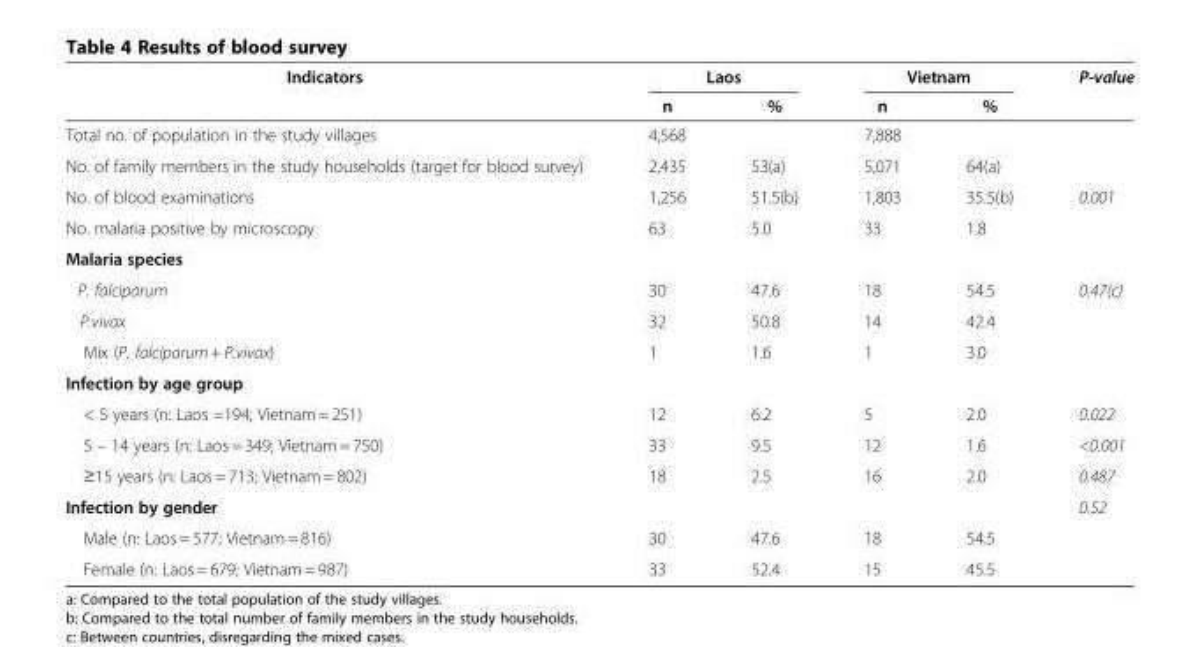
<table><thead><tr><td rowspan="2">Indicators</td><td colspan="2">Laos</td><td colspan="2">Vietnam</td><td rowspan="2">P-value</td></tr><tr><td>n</td><td>%</td><td>n</td><td>%</td></tr></thead><tbody><tr><td>Total no. of population in the study villages</td><td>4,568</td><td></td><td>7,888</td><td></td><td rowspan="2"></td></tr><tr><td>No. of family members in the study households (target for blood survey)</td><td>2,435</td><td>53(a)</td><td>5,071</td><td>64(a)</td></tr><tr><td>No. of blood examinations</td><td>1,256</td><td>51.5(b)</td><td>1,803</td><td>35.5(b)</td><td>0.001</td></tr><tr><td>No. malaria positive by microscopy</td><td>63</td><td>5.0</td><td>33</td><td>1.8</td><td></td></tr><tr><td colspan="6">Malaria species</td></tr><tr><td>P. falciparum</td><td>30</td><td>47.6</td><td>18</td><td>54.5</td><td>0.47(c)</td></tr><tr><td>P.vivax</td><td>32</td><td>50.8</td><td>14</td><td>42.4</td><td></td></tr><tr><td>Mix (P. falciparum + P.vivax)</td><td>1</td><td>1.6</td><td>1</td><td>3.0</td><td></td></tr><tr><td colspan="6">Infection by age group</td></tr><tr><td>&lt; 5 years (n: Laos =194; Vietnam = 251)</td><td>12</td><td>6.2</td><td>5</td><td>2.0</td><td>0.022</td></tr><tr><td>5 – 14 years (n: Laos = 349; Vietnam = 750)</td><td>33</td><td>9.5</td><td>12</td><td>1.6</td><td>&lt;0.001</td></tr><tr><td>≥15 years (n: Laos = 713; Vietnam = 802)</td><td>18</td><td>2.5</td><td>16</td><td>2.0</td><td>0.487</td></tr><tr><td>Infection by gender</td><td></td><td></td><td></td><td></td><td>0.52</td></tr><tr><td>Male (n: Laos = 577; Vietnam = 816)</td><td>30</td><td>47.6</td><td>18</td><td>54.5</td><td></td></tr><tr><td>Female (n: Laos = 679; Vietnam = 987)</td><td>33</td><td>52.4</td><td>15</td><td>45.5</td><td></td></tr></tbody></table>